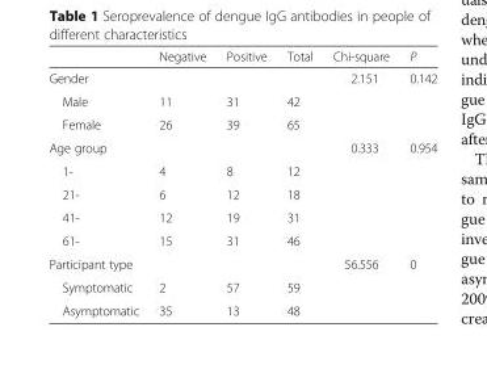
<table><thead><tr><td></td><td>Negative</td><td>Positive</td><td>Total</td><td>Chi-square</td><td>P</td></tr></thead><tbody><tr><td>Gender</td><td></td><td></td><td></td><td>2.151</td><td>0.142</td></tr><tr><td>Male</td><td>11</td><td>31</td><td>42</td><td></td><td></td></tr><tr><td>Female</td><td>26</td><td>39</td><td>65</td><td></td><td></td></tr><tr><td>Age group</td><td></td><td></td><td></td><td>0.333</td><td>0.954</td></tr><tr><td>1-</td><td>4</td><td>8</td><td>12</td><td></td><td></td></tr><tr><td>21-</td><td>6</td><td>12</td><td>18</td><td></td><td></td></tr><tr><td>41-</td><td>12</td><td>19</td><td>31</td><td></td><td></td></tr><tr><td>61-</td><td>15</td><td>31</td><td>46</td><td></td><td></td></tr><tr><td>Participant type</td><td></td><td></td><td></td><td>56.556</td><td>0</td></tr><tr><td>Symptomatic</td><td>2</td><td>57</td><td>59</td><td></td><td></td></tr><tr><td>Asymptomatic</td><td>35</td><td>13</td><td>48</td><td></td><td></td></tr></tbody></table>